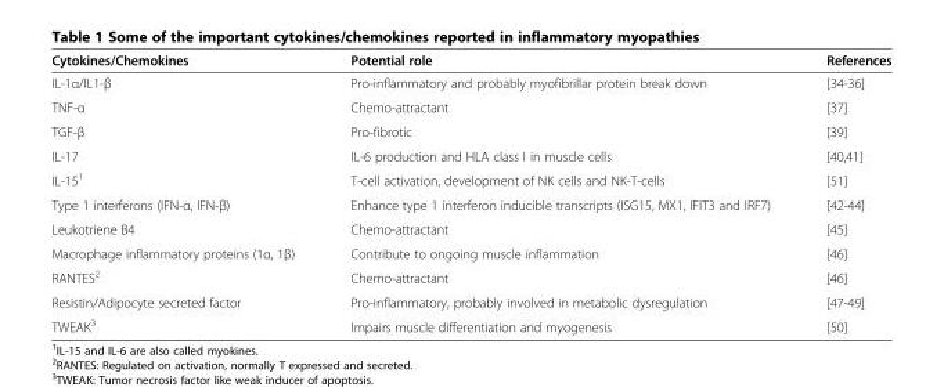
<table><thead><tr><td>Cytokines/Chemokines</td><td>Potential role</td><td>References</td></tr></thead><tbody><tr><td>IL-1α/IL1-β</td><td>Pro-inflammatory and probably myofibrillar protein break down</td><td>[34-36]</td></tr><tr><td>TNF-α</td><td>Chemo-attractant</td><td>[37]</td></tr><tr><td>TGF-β</td><td>Pro-fibrotic</td><td>[39]</td></tr><tr><td>IL-17</td><td>IL-6 production and HLA class I in muscle cells</td><td>[40,41]</td></tr><tr><td>IL-15<sup>1</sup></td><td>T-cell activation, development of NK cells and NK-T-cells</td><td>[51]</td></tr><tr><td>Type 1 interferons (IFN-α, IFN-β)</td><td>Enhance type 1 interferon inducible transcripts (ISG15, MX1, IFIT3 and IRF7)</td><td>[42-44]</td></tr><tr><td>Leukotriene B4</td><td>Chemo-attractant</td><td>[45]</td></tr><tr><td>Macrophage inflammatory proteins (1α, 1β)</td><td>Contribute to ongoing muscle inflammation</td><td>[46]</td></tr><tr><td>RANTES<sup>2</sup></td><td>Chemo-attractant</td><td>[46]</td></tr><tr><td>Resistin/Adipocyte secreted factor</td><td>Pro-inflammatory, probably involved in metabolic dysregulation</td><td>[47-49]</td></tr><tr><td>TWEAK<sup>3</sup></td><td>Impairs muscle differentiation and myogenesis</td><td>[50]</td></tr></tbody></table>